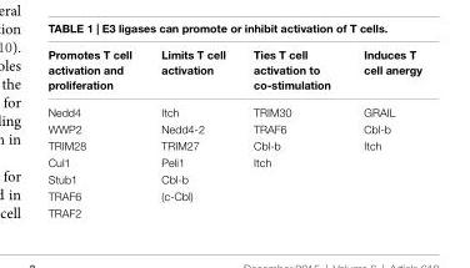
<table><thead><tr><td>Promotes T cell activation and proliferation</td><td>Limits T cell activation</td><td>Ties T cell activation to co-stimulation</td><td>induces T cell anergy</td></tr></thead><tbody><tr><td>Nedd4</td><td>Itch</td><td>TRIM30</td><td>GRAIL</td></tr><tr><td>WWP2</td><td>Nedd4-2</td><td>TRAF6</td><td>Cbl-b</td></tr><tr><td>TRIM28</td><td>TRIM27</td><td>Cbl-b</td><td>Itch</td></tr><tr><td>Cul1</td><td>Peli1</td><td>Itch</td><td></td></tr><tr><td>Stub1</td><td>Cbl-b</td><td></td><td></td></tr><tr><td>TRAF6</td><td>(c-Cbl)</td><td></td><td></td></tr><tr><td>TRAF2</td><td></td><td></td><td></td></tr></tbody></table>